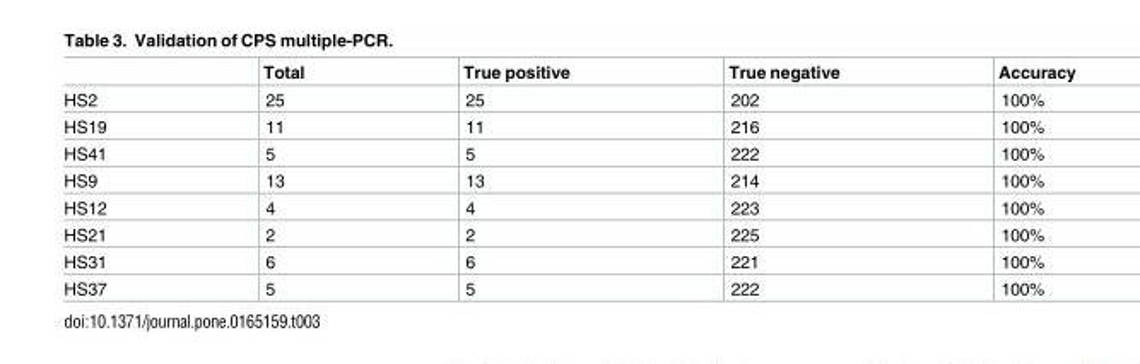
<table><thead><tr><td></td><td>Total</td><td>True positive</td><td>True negative</td><td>Accuracy</td></tr></thead><tbody><tr><td>HS2</td><td>25</td><td>25</td><td>202</td><td>100%</td></tr><tr><td>HS19</td><td>11</td><td>11</td><td>216</td><td>100%</td></tr><tr><td>HS41</td><td>5</td><td>5</td><td>222</td><td>100%</td></tr><tr><td>HS9</td><td>13</td><td>13</td><td>214</td><td>100%</td></tr><tr><td>HS12</td><td>4</td><td>4</td><td>223</td><td>100%</td></tr><tr><td>HS21</td><td>2</td><td>2</td><td>225</td><td>100%</td></tr><tr><td>HS31</td><td>6</td><td>6</td><td>221</td><td>100%</td></tr><tr><td>HS37</td><td>5</td><td>5</td><td>222</td><td>100%</td></tr></tbody></table>